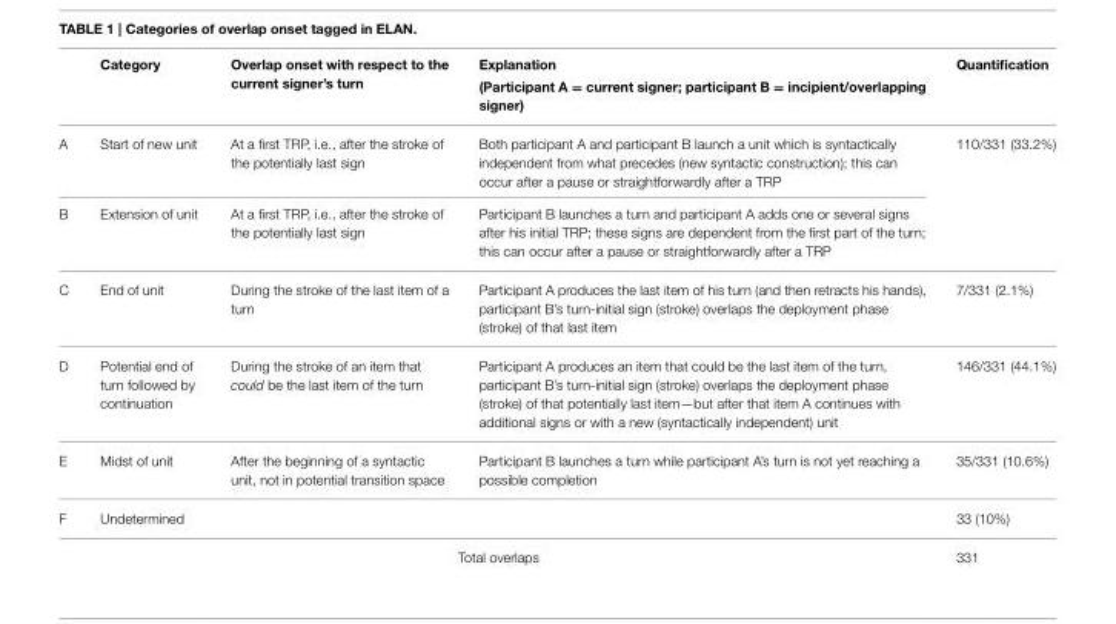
<table><thead><tr><td></td><td>Category</td><td>Overlap onset with respect to the current signer’s turn</td><td>Explanation (Participant A = current signer; participant B = incipient/overlapping signer)</td><td>Quantification</td></tr></thead><tbody><tr><td>A</td><td>Start of new unit</td><td>At a first TRP, i.e., after the stroke of the potentially last sign</td><td>Both participant A and participant B launch a unit which is syntactically independent from what precedes (new syntactic construction); this can occur after a pause or straightforwardly after a TRP</td><td>110/331 (33.2%)</td></tr><tr><td>B</td><td>Extension of unit</td><td>At a first TRP, i.e., after the stroke of the potentially last sign</td><td>Participant B launches a turn and participant A adds one or several signs after his initial TRP; these signs are dependent from the first part of the turn; this can occur after a pause or straightforwardly after a TRP</td><td></td></tr><tr><td>C</td><td>End of unit</td><td>During the stroke of the last item of a turn</td><td>Participant A produces the last item of his turn (and then retracts his hands), participant B’s turn-initial sign (stroke) overlaps the deployment phase (stroke) of that last item</td><td>7/331 (2.1%)</td></tr><tr><td>D</td><td>Potential end of turn followed by continuation</td><td>During the stroke of an item that could be the last item of the turn</td><td>Participant A produces an item that could be the last item of the turn, participant B’s turn-initial sign (stroke) overlaps the deployment phase (stroke) of that potentially last item—but after that item A continues with additional signs or with a new (syntactically independent) unit</td><td>146/331 (44.1%)</td></tr><tr><td>E</td><td>Midst of unit</td><td>After the beginning of a syntactic unit, not in potential transition space</td><td>Participant B launches a turn while participant A’s turn is not yet reaching a possible completion</td><td>35/331 (10.6%)</td></tr><tr><td>F</td><td>Undetermined</td><td></td><td></td><td>33 (10%)</td></tr><tr><td colspan="4">Total overlaps</td><td>331</td></tr></tbody></table>